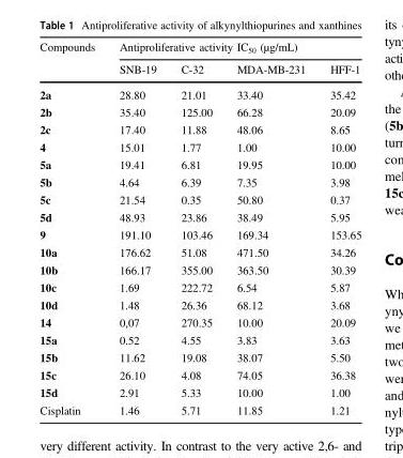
<table><thead><tr><td rowspan="2">Compounds</td><td colspan="4">Antiproliferative activity IC<sub>50</sub> (μg/mL)</td></tr><tr><td>SNB-19</td><td>C-32</td><td>MDA-MB-231</td><td>HFF-1</td></tr></thead><tbody><tr><td>2a</td><td>28.80</td><td>21.01</td><td>33.40</td><td>35.42</td></tr><tr><td>2b</td><td>35.40</td><td>125.00</td><td>66.28</td><td>20.09</td></tr><tr><td>2c</td><td>17.40</td><td>11.88</td><td>48.06</td><td>8.65</td></tr><tr><td>4</td><td>15.01</td><td>1.77</td><td>1.00</td><td>10.00</td></tr><tr><td>5a</td><td>19.41</td><td>6.81</td><td>19.95</td><td>10.00</td></tr><tr><td>5b</td><td>4.64</td><td>6.39</td><td>7.35</td><td>3.98</td></tr><tr><td>5c</td><td>21.54</td><td>0.35</td><td>50.80</td><td>0.37</td></tr><tr><td>5d</td><td>48.93</td><td>23.86</td><td>38.49</td><td>5.95</td></tr><tr><td>9</td><td>191.10</td><td>103.46</td><td>169.34</td><td>153.65</td></tr><tr><td>10a</td><td>176.62</td><td>51.08</td><td>471.50</td><td>34.26</td></tr><tr><td>10b</td><td>166.17</td><td>355.00</td><td>363.50</td><td>30.39</td></tr><tr><td>10c</td><td>1.69</td><td>222.72</td><td>6.54</td><td>5.87</td></tr><tr><td>10d</td><td>1.48</td><td>26.36</td><td>68.12</td><td>3.68</td></tr><tr><td>14</td><td>0,07</td><td>270.35</td><td>10.00</td><td>20.09</td></tr><tr><td>15a</td><td>0.52</td><td>4.55</td><td>3.83</td><td>3.63</td></tr><tr><td>15b</td><td>11.62</td><td>19.08</td><td>38.07</td><td>5.50</td></tr><tr><td>15c</td><td>26.10</td><td>4.08</td><td>74.05</td><td>36.38</td></tr><tr><td>15d</td><td>2.91</td><td>5.33</td><td>10.00</td><td>1.00</td></tr><tr><td>Cisplatin</td><td>1.46</td><td>5.71</td><td>11.85</td><td>1.21</td></tr></tbody></table>